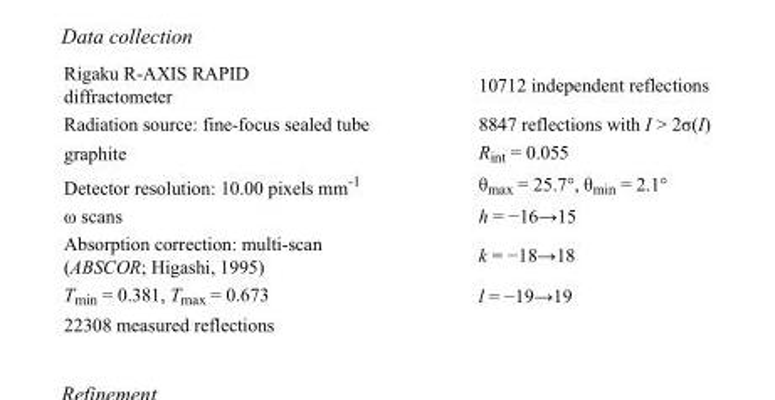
<table><tbody><tr><td>Rigaku R-AXIS RAPID diffractometer</td><td>10712 independent reflections</td></tr><tr><td>Radiation source: fine-focus sealed tube</td><td>8847 reflections with I &gt; 2σ(I)</td></tr><tr><td>graphite</td><td>R<sub>int</sub> = 0.055</td></tr><tr><td>Detector resolution: 10.00 pixels mm<sup>-1</sup></td><td>θ<sub>max</sub> = 25.7°, θ<sub>min</sub> = 2.1°</td></tr><tr><td>ω scans</td><td>h = −16→15</td></tr><tr><td>Absorption correction: multi-scan (ABSCOR; Higashi, 1995)</td><td>k = −18→18</td></tr><tr><td>T<sub>min</sub> = 0.381, T<sub>max</sub> = 0.673</td><td>l = −19→19</td></tr><tr><td>22308 measured reflections</td><td></td></tr></tbody></table>